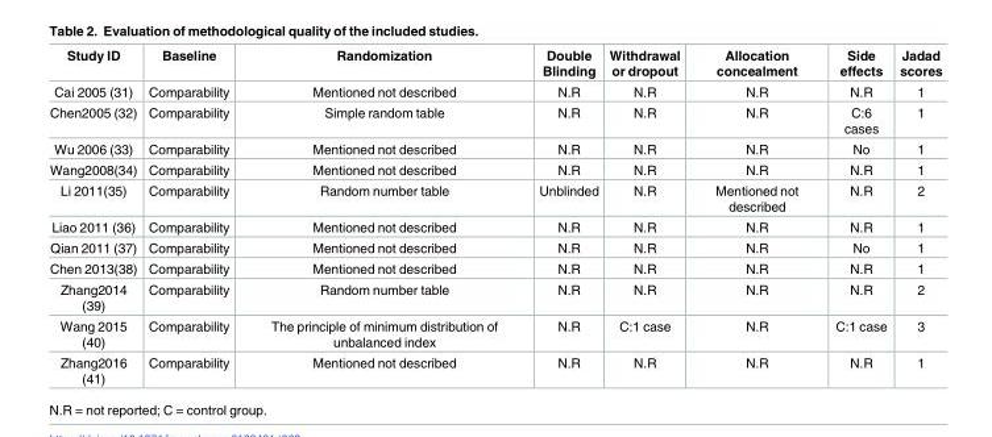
<table><thead><tr><td>Study ID</td><td>Baseline</td><td>Randomization</td><td>Double Blinding</td><td>Withdrawal or dropout</td><td>Allocation concealment</td><td>Side effects</td><td>Jadad scores</td></tr></thead><tbody><tr><td>Cai 2005 (31)</td><td>Comparability</td><td>Mentioned not described</td><td>N.R</td><td>N.R</td><td>N.R</td><td>N.R</td><td>1</td></tr><tr><td>Chen2005 (32)</td><td>Comparability</td><td>Simple random table</td><td>N.R</td><td>N.R</td><td>N.R</td><td>C:6 cases</td><td>1</td></tr><tr><td>Wu 2006 (33)</td><td>Comparability</td><td>Mentioned not described</td><td>N.R</td><td>N.R</td><td>N.R</td><td>No</td><td>1</td></tr><tr><td>Wang2008(34)</td><td>Comparability</td><td>Mentioned not described</td><td>N.R</td><td>N.R</td><td>N.R</td><td>N.R</td><td>1</td></tr><tr><td>Li 2011(35)</td><td>Comparability</td><td>Random number table</td><td>Unblinded</td><td>N.R</td><td>Mentioned not described</td><td>N.R</td><td>2</td></tr><tr><td>Liao 2011 (36)</td><td>Comparability</td><td>Mentioned not described</td><td>N.R</td><td>N.R</td><td>N.R</td><td>N.R</td><td>1</td></tr><tr><td>Qian 2011 (37)</td><td>Comparability</td><td>Mentioned not described</td><td>N.R</td><td>N.R</td><td>N.R</td><td>No</td><td>1</td></tr><tr><td>Chen 2013(38)</td><td>Comparability</td><td>Mentioned not described</td><td>N.R</td><td>N.R</td><td>N.R</td><td>N.R</td><td>1</td></tr><tr><td>Zhang2014 (39)</td><td>Comparability</td><td>Random number table</td><td>N.R</td><td>N.R</td><td>N.R</td><td>N.R</td><td>2</td></tr><tr><td>Wang 2015 (40)</td><td>Comparability</td><td>The principle of minimum distribution of unbalanced index</td><td>N.R</td><td>C:1 case</td><td>N.R</td><td>C:1 case</td><td>3</td></tr><tr><td>Zhang2016 (41)</td><td>Comparability</td><td>Mentioned not described</td><td>N.R</td><td>N.R</td><td>N.R</td><td>N.R</td><td>1</td></tr></tbody></table>